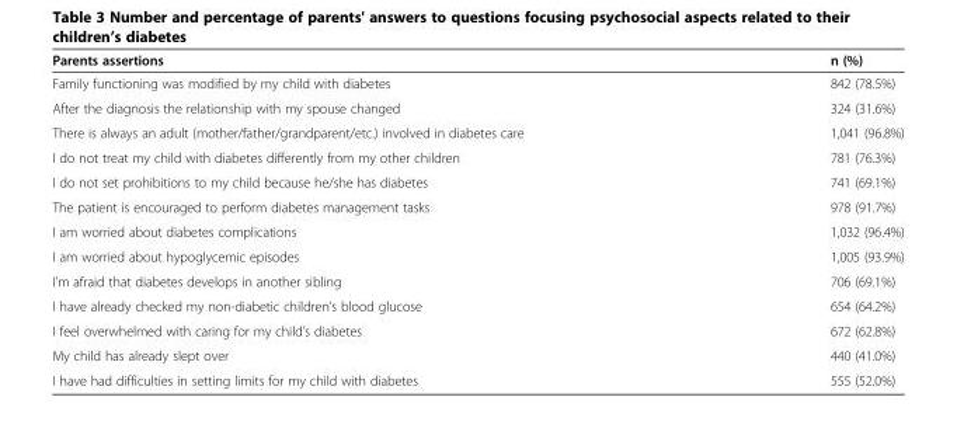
<table><thead><tr><td>Parents assertions</td><td>n (%)</td></tr></thead><tbody><tr><td>Family functioning was modified by my child with diabetes</td><td>842 (78.5%)</td></tr><tr><td>After the diagnosis the relationship with my spouse changed</td><td>324 (31.6%)</td></tr><tr><td>There is always an adult (mother/father/grandparent/etc.) involved in diabetes care</td><td>1,041 (96.8%)</td></tr><tr><td>I do not treat my child with diabetes differently from my other children</td><td>781 (76.3%)</td></tr><tr><td>I do not set prohibitions to my child because he/she has diabetes</td><td>741 (69.1%)</td></tr><tr><td>The patient is encouraged to perform diabetes management tasks</td><td>978 (91.7%)</td></tr><tr><td>I am worried about diabetes complications</td><td>1,032 (96.4%)</td></tr><tr><td>I am worried about hypoglycemic episodes</td><td>1,005 (93.9%)</td></tr><tr><td>I’m afraid that diabetes develops in another sibling</td><td>706 (69.1%)</td></tr><tr><td>I have already checked my non-diabetic children’s blood glucose</td><td>654 (64.2%)</td></tr><tr><td>I feel overwhelmed with caring for my child’s diabetes</td><td>672 (62.8%)</td></tr><tr><td>My child has already slept over</td><td>440 (41.0%)</td></tr><tr><td>I have had difficulties in setting limits for my child with diabetes</td><td>555 (52.0%)</td></tr></tbody></table>